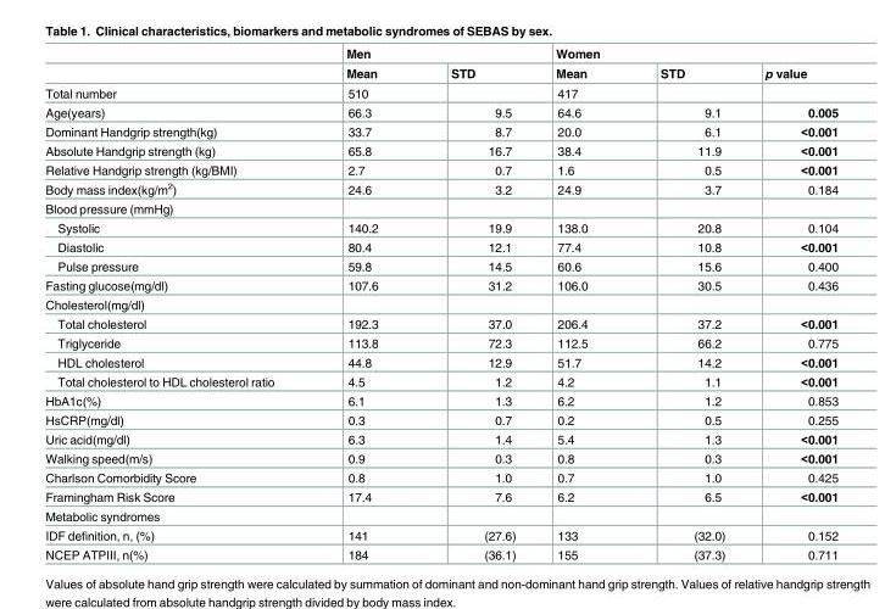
<table><thead><tr><td rowspan="2"></td><td colspan="2">Men</td><td colspan="3">Women</td></tr><tr><td>Mean</td><td>STD</td><td>Mean</td><td>STD</td><td>p value</td></tr></thead><tbody><tr><td>Total number</td><td>510</td><td></td><td>417</td><td></td><td></td></tr><tr><td>Age(years)</td><td>66.3</td><td>9.5</td><td>64.6</td><td>9.1</td><td>0.005</td></tr><tr><td>Dominant Handgrip strength(kg)</td><td>33.7</td><td>8.7</td><td>20.0</td><td>6.1</td><td>&lt;0.001</td></tr><tr><td>Absolute Handgrip strength (kg)</td><td>65.8</td><td>16.7</td><td>38.4</td><td>11.9</td><td>&lt;0.001</td></tr><tr><td>Relative Handgrip strength (kg/BMI)</td><td>2.7</td><td>0.7</td><td>1.6</td><td>0.5</td><td>&lt;0.001</td></tr><tr><td>Body mass index(kg/m<sup>2</sup>)</td><td>24.6</td><td>3.2</td><td>24.9</td><td>3.7</td><td>0.184</td></tr><tr><td colspan="6">Blood pressure (mmHg)</td></tr><tr><td>Systolic</td><td>140.2</td><td>19.9</td><td>138.0</td><td>20.8</td><td>0.104</td></tr><tr><td>Diastolic</td><td>80.4</td><td>12.1</td><td>77.4</td><td>10.8</td><td>&lt;0.001</td></tr><tr><td>Pulse pressure</td><td>59.8</td><td>14.5</td><td>60.6</td><td>15.6</td><td>0.400</td></tr><tr><td>Fasting glucose(mg/dl)</td><td>107.6</td><td>31.2</td><td>106.0</td><td>30.5</td><td>0.436</td></tr><tr><td colspan="6">Cholesterol(mg/dl)</td></tr><tr><td>Total cholesterol</td><td>192.3</td><td>37.0</td><td>206.4</td><td>37.2</td><td>&lt;0.001</td></tr><tr><td>Triglyceride</td><td>113.8</td><td>72.3</td><td>112.5</td><td>66.2</td><td>0.775</td></tr><tr><td>HDL cholesterol</td><td>44.8</td><td>12.9</td><td>51.7</td><td>14.2</td><td>&lt;0.001</td></tr><tr><td>Total cholesterol to HDL cholesterol ratio</td><td>4.5</td><td>1.2</td><td>4.2</td><td>1.1</td><td>&lt;0.001</td></tr><tr><td>HbA1c(%)</td><td>6.1</td><td>1.3</td><td>6.2</td><td>1.2</td><td>0.853</td></tr><tr><td>HsCRP(mg/dl)</td><td>0.3</td><td>0.7</td><td>0.2</td><td>0.5</td><td>0.255</td></tr><tr><td>Uric acid(mg/dl)</td><td>6.3</td><td>1.4</td><td>5.4</td><td>1.3</td><td>&lt;0.001</td></tr><tr><td>Walking speed(m/s)</td><td>0.9</td><td>0.3</td><td>0.8</td><td>0.3</td><td>&lt;0.001</td></tr><tr><td>Charlson Comorbidity Score</td><td>0.8</td><td>1.0</td><td>0.7</td><td>1.0</td><td>0.425</td></tr><tr><td>Framingham Risk Score</td><td>17.4</td><td>7.6</td><td>6.2</td><td>6.5</td><td>&lt;0.001</td></tr><tr><td colspan="6">Metabolic syndromes</td></tr><tr><td>IDF definition, n, (%)</td><td>141</td><td>(27.6)</td><td>133</td><td>(32.0)</td><td>0.152</td></tr><tr><td>NCEP ATPIII, n(%)</td><td>184</td><td>(36.1)</td><td>155</td><td>(37.3)</td><td>0.711</td></tr></tbody></table>